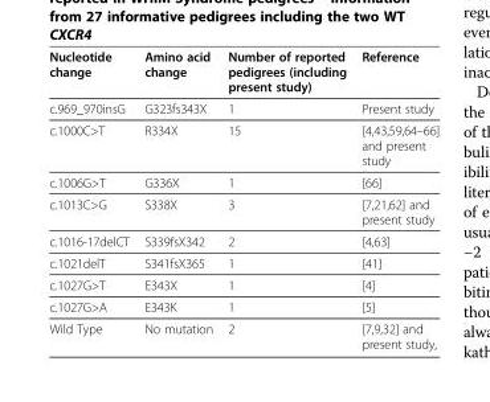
<table><thead><tr><td>Nucleotide change</td><td>Amino acid change</td><td>Number of reported pedigrees (including present study)</td><td>Reference</td></tr></thead><tbody><tr><td>c.969_970insG</td><td>G323fs343X</td><td>1</td><td>Present study</td></tr><tr><td>c.1000C&gt;T</td><td>R334X</td><td>15</td><td>[4,43,59,64–66] and present study</td></tr><tr><td>c.1006G&gt;T</td><td>G336X</td><td>1</td><td>[66]</td></tr><tr><td>c.1013C&gt;G</td><td>S338X</td><td>3</td><td>[7,21,62] and present study</td></tr><tr><td>c.1016-17delCT</td><td>S339fsX342</td><td>2</td><td>[4,63]</td></tr><tr><td>c.1021delT</td><td>S341fsX365</td><td>1</td><td>[41]</td></tr><tr><td>c.1027G&gt;T</td><td>E343X</td><td>1</td><td>[4]</td></tr><tr><td>c.1027G&gt;A</td><td>E343K</td><td>1</td><td>[5]</td></tr><tr><td>Wild Type</td><td>No mutation</td><td>2</td><td>[7,9,32] and present study,</td></tr></tbody></table>